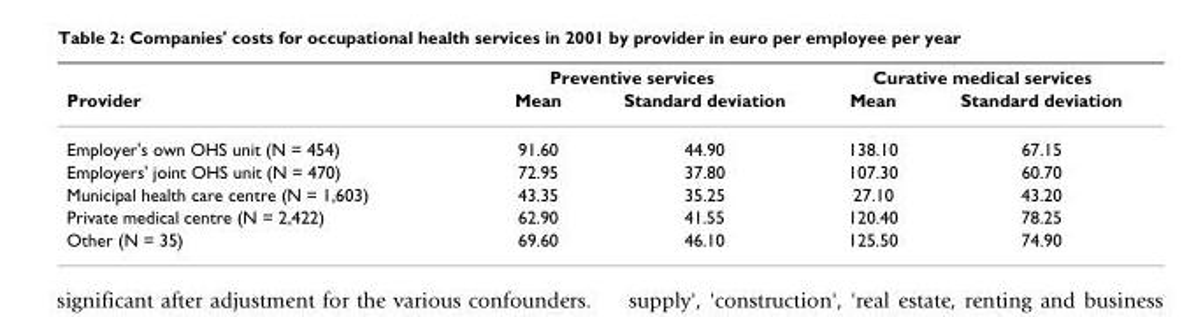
<table><thead><tr><td rowspan="2">Provider</td><td colspan="2">Preventive services</td><td colspan="2">Curative medical services</td></tr><tr><td>Mean</td><td>Standard deviation</td><td>Mean</td><td>Standard deviation</td></tr></thead><tbody><tr><td>Employer&#x27;s own OHS unit (N = 454)</td><td>91.60</td><td>44.90</td><td>138.10</td><td>67.15</td></tr><tr><td>Employers&#x27; joint OHS unit (N = 470)</td><td>72.95</td><td>37.80</td><td>107.30</td><td>60.70</td></tr><tr><td>Municipal health care centre (N = 1,603)</td><td>43.35</td><td>35.25</td><td>27.10</td><td>43.20</td></tr><tr><td>Private medical centre (N = 2,422)</td><td>62.90</td><td>41.55</td><td>120.40</td><td>78.25</td></tr><tr><td>Other (N = 35)</td><td>69.60</td><td>46.10</td><td>125.50</td><td>74.90</td></tr></tbody></table>